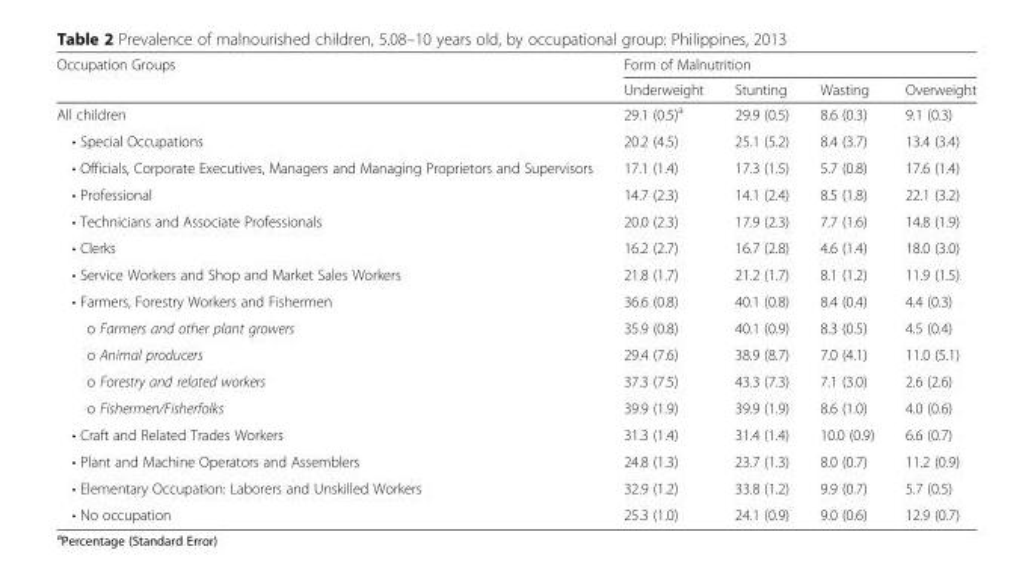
<table><thead><tr><td rowspan="2">Occupation Groups</td><td colspan="4">Form of Malnutrition</td></tr><tr><td>Underweight</td><td>Stunting</td><td>Wasting</td><td>Overweight</td></tr></thead><tbody><tr><td>All children</td><td>29.1 (0.5)<sup>a</sup></td><td>29.9 (0.5)</td><td>8.6 (0.3)</td><td>9.1 (0.3)</td></tr><tr><td>• Special Occupations</td><td>20.2 (4.5)</td><td>25.1 (5.2)</td><td>8.4 (3.7)</td><td>13.4 (3.4)</td></tr><tr><td>• Officials, Corporate Executives, Managers and Managing Proprietors and Supervisors</td><td>17.1 (1.4)</td><td>17.3 (1.5)</td><td>5.7 (0.8)</td><td>17.6 (1.4)</td></tr><tr><td>• Professional</td><td>14.7 (2.3)</td><td>14.1 (2.4)</td><td>8.5 (1.8)</td><td>22.1 (3.2)</td></tr><tr><td>• Technicians and Associate Professionals</td><td>20.0 (2.3)</td><td>17.9 (2.3)</td><td>7.7 (1.6)</td><td>14.8 (1.9)</td></tr><tr><td>• Clerks</td><td>16.2 (2.7)</td><td>16.7 (2.8)</td><td>4.6 (1.4)</td><td>18.0 (3.0)</td></tr><tr><td>• Service Workers and Shop and Market Sales Workers</td><td>21.8 (1.7)</td><td>21.2 (1.7)</td><td>8.1 (1.2)</td><td>11.9 (1.5)</td></tr><tr><td>• Farmers, Forestry Workers and Fishermen</td><td>36.6 (0.8)</td><td>40.1 (0.8)</td><td>8.4 (0.4)</td><td>4.4 (0.3)</td></tr><tr><td>o Farmers and other plant growers</td><td>35.9 (0.8)</td><td>40.1 (0.9)</td><td>8.3 (0.5)</td><td>4.5 (0.4)</td></tr><tr><td>o Animal producers</td><td>29.4 (7.6)</td><td>38.9 (8.7)</td><td>7.0 (4.1)</td><td>11.0 (5.1)</td></tr><tr><td>o Forestry and related workers</td><td>37.3 (7.5)</td><td>43.3 (7.3)</td><td>7.1 (3.0)</td><td>2.6 (2.6)</td></tr><tr><td>o Fishermen/Fisherfolks</td><td>39.9 (1.9)</td><td>39.9 (1.9)</td><td>8.6 (1.0)</td><td>4.0 (0.6)</td></tr><tr><td>• Craft and Related Trades Workers</td><td>31.3 (1.4)</td><td>31.4 (1.4)</td><td>10.0 (0.9)</td><td>6.6 (0.7)</td></tr><tr><td>• Plant and Machine Operators and Assemblers</td><td>24.8 (1.3)</td><td>23.7 (1.3)</td><td>8.0 (0.7)</td><td>11.2 (0.9)</td></tr><tr><td>• Elementary Occupation: Laborers and Unskilled Workers</td><td>32.9 (1.2)</td><td>33.8 (1.2)</td><td>9.9 (0.7)</td><td>5.7 (0.5)</td></tr><tr><td>• No occupation</td><td>25.3 (1.0)</td><td>24.1 (0.9)</td><td>9.0 (0.6)</td><td>12.9 (0.7)</td></tr></tbody></table>